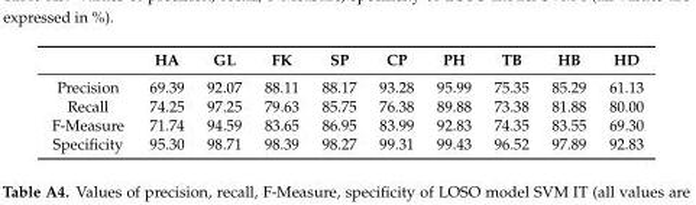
<table><thead><tr><td></td><td>HA</td><td>GL</td><td>FK</td><td>SP</td><td>CP</td><td>PH</td><td>TB</td><td>HB</td><td>HD</td></tr></thead><tbody><tr><td>Precision</td><td>69.39</td><td>92.07</td><td>88.11</td><td>88.17</td><td>93.28</td><td>95.99</td><td>75.35</td><td>85.29</td><td>61.13</td></tr><tr><td>Recall</td><td>74.25</td><td>97.25</td><td>79.63</td><td>85.75</td><td>76.38</td><td>89.88</td><td>73.38</td><td>81.88</td><td>80.00</td></tr><tr><td>F-Measure</td><td>71.74</td><td>94.59</td><td>83.65</td><td>86.95</td><td>83.99</td><td>92.83</td><td>74.35</td><td>83.55</td><td>69.30</td></tr><tr><td>Specificity</td><td>95.30</td><td>98.71</td><td>98.39</td><td>98.27</td><td>99.31</td><td>99.43</td><td>96.52</td><td>97.89</td><td>92.83</td></tr></tbody></table>